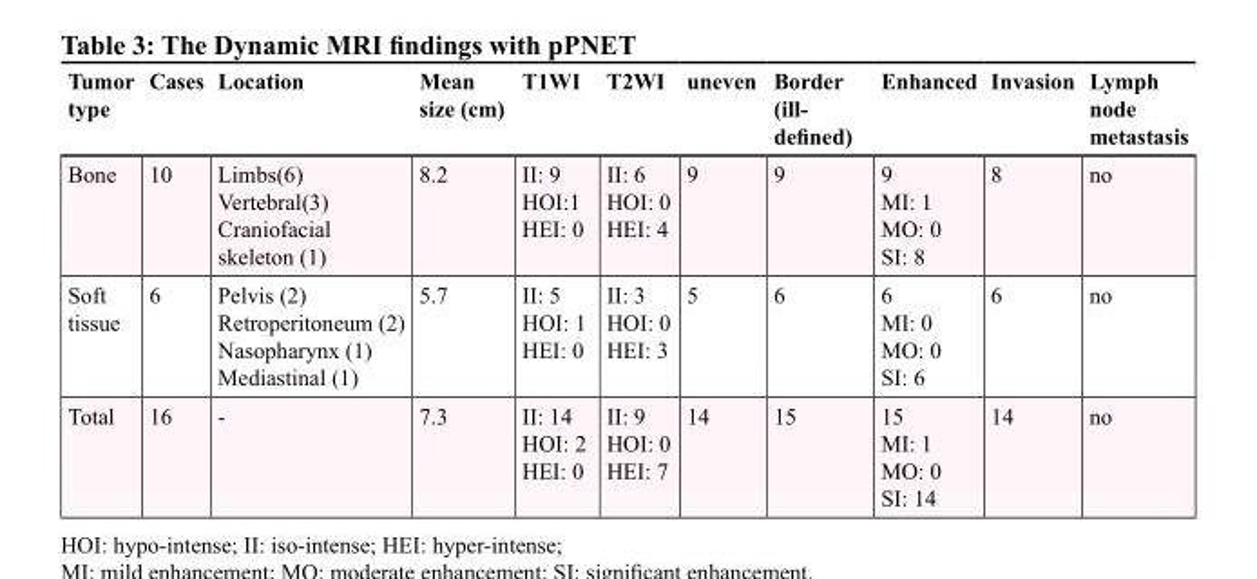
<table><thead><tr><td>Tumor type</td><td>Cases</td><td>Location</td><td>Mean size (cm)</td><td>T1WI</td><td>T2WI</td><td>uneven</td><td>Border (ill- defined)</td><td>Enhanced</td><td>Invasion</td><td>Lymph node metastasis</td></tr></thead><tbody><tr><td>Bone</td><td>10</td><td>Limbs(6) Vertebral(3) Craniofacial skeleton (1)</td><td>8.2</td><td>II: 9 HOI:1 HEI: 0</td><td>II: 6 HOI: 0 HEI: 4</td><td>9</td><td>9</td><td>9 MI: 1 MO: 0 SI: 8</td><td>8</td><td>no</td></tr><tr><td>Soft tissue</td><td>6</td><td>Pelvis (2) Retroperitoneum (2) Nasopharynx (1) Mediastinal (1)</td><td>5.7</td><td>II: 5 HOI: 1 HEI: 0</td><td>II: 3 HOI: 0 HEI: 3</td><td>5</td><td>6</td><td>6 MI: 0 MO: 0 SI: 6</td><td>6</td><td>no</td></tr><tr><td>Total</td><td>16</td><td>-</td><td>7.3</td><td>II: 14 HOI: 2 HEI: 0</td><td>II: 9 HOI: 0 HEI: 7</td><td>14</td><td>15</td><td>15 MI: 1 MO: 0 SI: 14</td><td>14</td><td>no</td></tr></tbody></table>